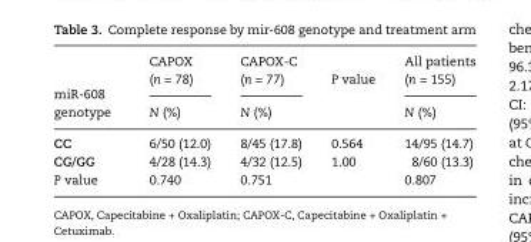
<table><thead><tr><td rowspan="2">miR-608 genotype</td><td rowspan="2">CAPOX (n = 78) N (%)</td><td rowspan="2">CAPOX-C (n = 77) N (%)</td><td rowspan="2">P value</td><td rowspan="2">All patients (n = 155) N (%)</td></tr><tr></tr></thead><tbody><tr><td>CC</td><td>6/50 (12.0)</td><td>8/45 (17.8)</td><td>0.564</td><td>14/95 (14.7)</td></tr><tr><td>CG/GG</td><td>4/28 (14.3)</td><td>4/32 (12.5)</td><td>1.00</td><td>8/60 (13.3)</td></tr><tr><td>P value</td><td>0.740</td><td>0.751</td><td></td><td>0.807</td></tr></tbody></table>